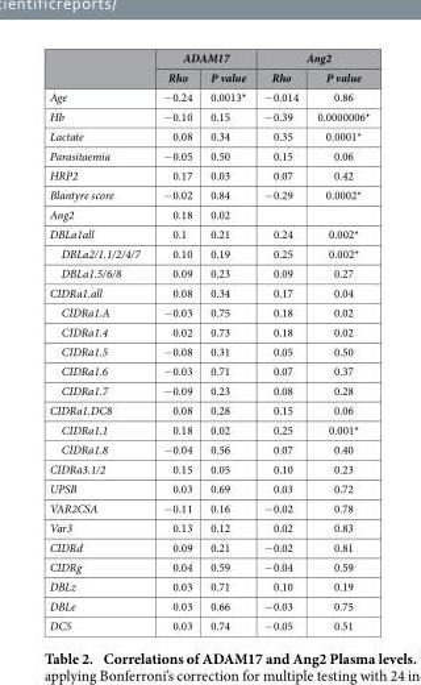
<table><thead><tr><td rowspan="2"></td><td colspan="2">ADAM17</td><td colspan="2">Ang2</td></tr><tr><td>Rho</td><td>P value</td><td>Rho</td><td>P value</td></tr></thead><tbody><tr><td>Age</td><td>− 0.24</td><td>0.0013*</td><td>− 0.014</td><td>0.86</td></tr><tr><td>Hb</td><td>− 0.10</td><td>0.15</td><td>− 0.39</td><td>0.0000006*</td></tr><tr><td>Lactate</td><td>0.08</td><td>0.34</td><td>0.35</td><td>0.0001*</td></tr><tr><td>Parasitaemia</td><td>− 0.05</td><td>0.50</td><td>0.15</td><td>0.06</td></tr><tr><td>HRP2</td><td>0.17</td><td>0.03</td><td>0.07</td><td>0.42</td></tr><tr><td>Blantyre score</td><td>− 0.02</td><td>0.84</td><td>− 0.29</td><td>0.0002*</td></tr><tr><td>Ang2</td><td>0.18</td><td>0.02</td><td></td><td></td></tr><tr><td>DBLa1all</td><td>0.1</td><td>0.21</td><td>0.24</td><td>0.002*</td></tr><tr><td>DBLa2/1.1/2/4/7</td><td>0.10</td><td>0.19</td><td>0.25</td><td>0.002*</td></tr><tr><td>DBLa1.5/6/8</td><td>0.09</td><td>0.23</td><td>0.09</td><td>0.27</td></tr><tr><td>CIDRa1.all</td><td>0.08</td><td>0.34</td><td>0.17</td><td>0.04</td></tr><tr><td>CIDRa1.A</td><td>− 0.03</td><td>0.75</td><td>0.18</td><td>0.02</td></tr><tr><td>CIDRa1.4</td><td>0.02</td><td>0.73</td><td>0.18</td><td>0.02</td></tr><tr><td>CIDRa1.5</td><td>− 0.08</td><td>0.31</td><td>0.05</td><td>0.50</td></tr><tr><td>CIDRa1.6</td><td>− 0.03</td><td>0.71</td><td>0.07</td><td>0.37</td></tr><tr><td>CIDRa1.7</td><td>− 0.09</td><td>0.23</td><td>0.08</td><td>0.28</td></tr><tr><td>CIDRa1.DC8</td><td>0.08</td><td>0.28</td><td>0.15</td><td>0.06</td></tr><tr><td>CIDRa1.1</td><td>0.18</td><td>0.02</td><td>0.25</td><td>0.001*</td></tr><tr><td>CIDRa1.8</td><td>− 0.04</td><td>0.56</td><td>0.07</td><td>0.40</td></tr><tr><td>CIDRa3.1/2</td><td>0.15</td><td>0.05</td><td>0.10</td><td>0.23</td></tr><tr><td>UPSB</td><td>0.03</td><td>0.69</td><td>0.03</td><td>0.72</td></tr><tr><td>VAR2CSA</td><td>− 0.11</td><td>0.16</td><td>− 0.02</td><td>0.78</td></tr><tr><td>Var3</td><td>0.13</td><td>0.12</td><td>0.02</td><td>0.83</td></tr><tr><td>CIDRd</td><td>0.09</td><td>0.21</td><td>− 0.02</td><td>0.81</td></tr><tr><td>CIDRg</td><td>0.04</td><td>0.59</td><td>− 0.04</td><td>0.59</td></tr><tr><td>DBLz</td><td>0.03</td><td>0.71</td><td>0.10</td><td>0.19</td></tr><tr><td>DBLe</td><td>0.03</td><td>0.66</td><td>− 0.03</td><td>0.75</td></tr><tr><td>DC5</td><td>0.03</td><td>0.74</td><td>− 0.05</td><td>0.51</td></tr></tbody></table>